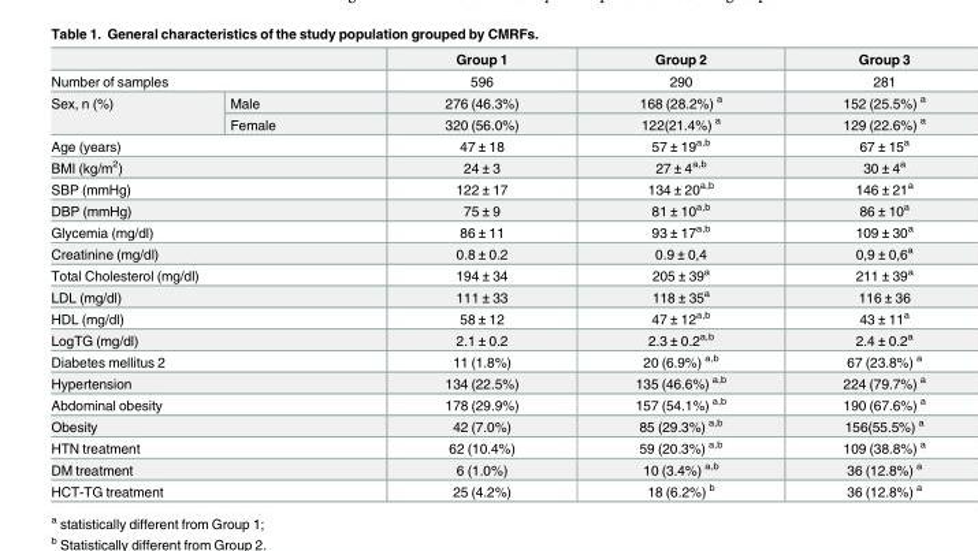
<table><thead><tr><td></td><td></td><td>Group 1</td><td>Group 2</td><td>Group 3</td></tr></thead><tbody><tr><td colspan="2">Number of samples</td><td>596</td><td>290</td><td>281</td></tr><tr><td rowspan="2">Sex, n (%)</td><td>Male</td><td>276 (46.3%)</td><td>168 (28.2%) <sup>a</sup></td><td>152 (25.5%) <sup>a</sup></td></tr><tr><td>Female</td><td>320 (56.0%)</td><td>122(21.4%) <sup>a</sup></td><td>129 (22.6%) <sup>a</sup></td></tr><tr><td colspan="2">Age (years)</td><td>47 ± 18</td><td>57 ± 19<sup>a,b</sup></td><td>67 ± 15<sup>a</sup></td></tr><tr><td colspan="2">BMI (kg/m<sup>2</sup>)</td><td>24 ± 3</td><td>27 ± 4<sup>a,b</sup></td><td>30 ± 4<sup>a</sup></td></tr><tr><td colspan="2">SBP (mmHg)</td><td>122 ± 17</td><td>134 ± 20<sup>a,b</sup></td><td>146 ± 21<sup>a</sup></td></tr><tr><td colspan="2">DBP (mmHg)</td><td>75 ± 9</td><td>81 ± 10<sup>a,b</sup></td><td>86 ± 10<sup>a</sup></td></tr><tr><td colspan="2">Glycemia (mg/dl)</td><td>86 ± 11</td><td>93 ± 17<sup>a,b</sup></td><td>109 ± 30<sup>a</sup></td></tr><tr><td colspan="2">Creatinine (mg/dl)</td><td>0.8 ± 0.2</td><td>0.9 ± 0,4</td><td>0,9 ± 0,6<sup>a</sup></td></tr><tr><td colspan="2">Total Cholesterol (mg/dl)</td><td>194 ± 34</td><td>205 ± 39<sup>a</sup></td><td>211 ± 39<sup>a</sup></td></tr><tr><td colspan="2">LDL (mg/dl)</td><td>111 ± 33</td><td>118 ± 35<sup>a</sup></td><td>116 ± 36</td></tr><tr><td colspan="2">HDL (mg/dl)</td><td>58 ± 12</td><td>47 ± 12<sup>a,b</sup></td><td>43 ± 11<sup>a</sup></td></tr><tr><td colspan="2">LogTG (mg/dl)</td><td>2.1 ± 0.2</td><td>2.3 ± 0.2<sup>a,b</sup></td><td>2.4 ± 0.2<sup>a</sup></td></tr><tr><td colspan="2">Diabetes mellitus 2</td><td>11 (1.8%)</td><td>20 (6.9%) <sup>a,b</sup></td><td>67 (23.8%) <sup>a</sup></td></tr><tr><td colspan="2">Hypertension</td><td>134 (22.5%)</td><td>135 (46.6%) <sup>a,b</sup></td><td>224 (79.7%) <sup>a</sup></td></tr><tr><td colspan="2">Abdominal obesity</td><td>178 (29.9%)</td><td>157 (54.1%) <sup>a,b</sup></td><td>190 (67.6%) <sup>a</sup></td></tr><tr><td colspan="2">Obesity</td><td>42 (7.0%)</td><td>85 (29.3%) <sup>a,b</sup></td><td>156(55.5%) <sup>a</sup></td></tr><tr><td colspan="2">HTN treatment</td><td>62 (10.4%)</td><td>59 (20.3%) <sup>a,b</sup></td><td>109 (38.8%) <sup>a</sup></td></tr><tr><td colspan="2">DM treatment</td><td>6 (1.0%)</td><td>10 (3.4%) <sup>a,b</sup></td><td>36 (12.8%) <sup>a</sup></td></tr><tr><td colspan="2">HCT-TG treatment</td><td>25 (4.2%)</td><td>18 (6.2%) <sup>b</sup></td><td>36 (12.8%) <sup>a</sup></td></tr></tbody></table>